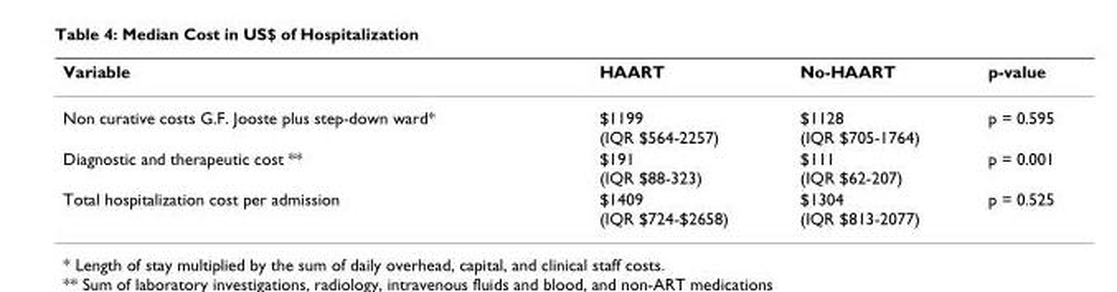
<table><thead><tr><td>Variable</td><td>HAART</td><td>No-HAART</td><td>p-value</td></tr></thead><tbody><tr><td>Non curative costs G.F. Jooste plus step-down ward*</td><td>$1199 (IQR $564-2257)</td><td>$1128 (IQR $705-1764)</td><td>p = 0.595</td></tr><tr><td>Diagnostic and therapeutic cost **</td><td>$191 (IQR $88-323)</td><td>$111 (IQR $62-207)</td><td>p = 0.001</td></tr><tr><td>Total hospitalization cost per admission</td><td>$1409 (IQR $724-$2658)</td><td>$1304 (IQR $813-2077)</td><td>p = 0.525</td></tr></tbody></table>